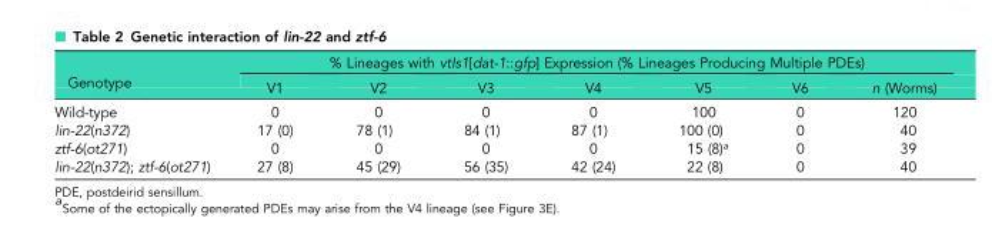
<table><thead><tr><td rowspan="2">Genotype</td><td colspan="7">% Lineages with vtIs1[dat-1::gfp] Expression (% Lineages Producing Multiple PDEs)</td></tr><tr><td>V1</td><td>V2</td><td>V3</td><td>V4</td><td>V5</td><td>V6</td><td>n (Worms)</td></tr></thead><tbody><tr><td>Wild-type</td><td>0</td><td>0</td><td>0</td><td>0</td><td>100</td><td>0</td><td>120</td></tr><tr><td>lin-22(n372)</td><td>17 (0)</td><td>78 (1)</td><td>84 (1)</td><td>87 (1)</td><td>100 (0)</td><td>0</td><td>40</td></tr><tr><td>ztf-6(ot271)</td><td>0</td><td>0</td><td>0</td><td>0</td><td>15 (8)<sup>a</sup></td><td>0</td><td>39</td></tr><tr><td>lin-22(n372); ztf-6(ot271)</td><td>27 (8)</td><td>45 (29)</td><td>56 (35)</td><td>42 (24)</td><td>22 (8)</td><td>0</td><td>40</td></tr></tbody></table>